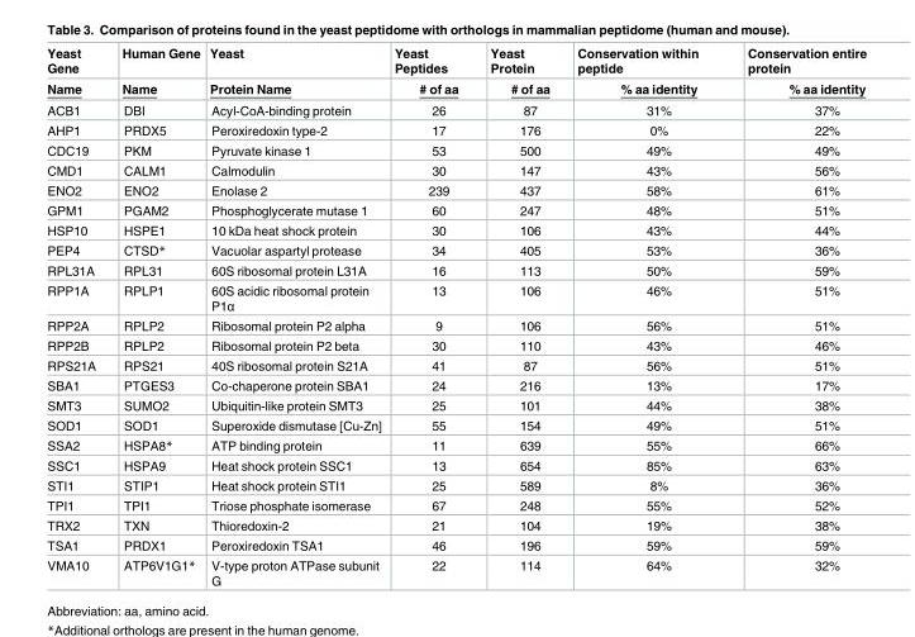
<table><thead><tr><td rowspan="2">Yeast Gene Name</td><td rowspan="2">Human Gene Name</td><td rowspan="2">Yeast Protein Name</td><td rowspan="2">Yeast Peptides # of aa</td><td rowspan="2">Yeast Protein # of aa</td><td rowspan="2">Conservation within peptide % aa identity</td><td rowspan="2">Conservation entire protein % aa identity</td></tr><tr></tr></thead><tbody><tr><td>ACB1</td><td>DBI</td><td>Acyl-CoA-binding protein</td><td>26</td><td>87</td><td>31%</td><td>37%</td></tr><tr><td>AHP1</td><td>PRDX5</td><td>Peroxiredoxin type-2</td><td>17</td><td>176</td><td>0%</td><td>22%</td></tr><tr><td>CDC19</td><td>PKM</td><td>Pyruvate kinase 1</td><td>53</td><td>500</td><td>49%</td><td>49%</td></tr><tr><td>CMD1</td><td>CALM1</td><td>Calmodulin</td><td>30</td><td>147</td><td>43%</td><td>56%</td></tr><tr><td>ENO2</td><td>ENO2</td><td>Enolase 2</td><td>239</td><td>437</td><td>58%</td><td>61%</td></tr><tr><td>GPM1</td><td>PGAM2</td><td>Phosphoglycerate mutase 1</td><td>60</td><td>247</td><td>48%</td><td>51%</td></tr><tr><td>HSP10</td><td>HSPE1</td><td>10 kDa heat shock protein</td><td>30</td><td>106</td><td>43%</td><td>44%</td></tr><tr><td>PEP4</td><td>CTSD*</td><td>Vacuolar aspartyl protease</td><td>34</td><td>405</td><td>53%</td><td>36%</td></tr><tr><td>RPL31A</td><td>RPL31</td><td>60S ribosomal protein L31A</td><td>16</td><td>113</td><td>50%</td><td>59%</td></tr><tr><td>RPP1A</td><td>RPLP1</td><td>60S acidic ribosomal protein P1α</td><td>13</td><td>106</td><td>46%</td><td>51%</td></tr><tr><td>RPP2A</td><td>RPLP2</td><td>Ribosomal protein P2 alpha</td><td>9</td><td>106</td><td>56%</td><td>51%</td></tr><tr><td>RPP2B</td><td>RPLP2</td><td>Ribosomal protein P2 beta</td><td>30</td><td>110</td><td>43%</td><td>46%</td></tr><tr><td>RPS21A</td><td>RPS21</td><td>40S ribosomal protein S21A</td><td>41</td><td>87</td><td>56%</td><td>51%</td></tr><tr><td>SBA1</td><td>PTGES3</td><td>Co-chaperone protein SBA1</td><td>24</td><td>216</td><td>13%</td><td>17%</td></tr><tr><td>SMT3</td><td>SUMO2</td><td>Ubiquitin-like protein SMT3</td><td>25</td><td>101</td><td>44%</td><td>38%</td></tr><tr><td>SOD1</td><td>SOD1</td><td>Superoxide dismutase [Cu-Zn]</td><td>55</td><td>154</td><td>49%</td><td>51%</td></tr><tr><td>SSA2</td><td>HSPA8*</td><td>ATP binding protein</td><td>11</td><td>639</td><td>55%</td><td>66%</td></tr><tr><td>SSC1</td><td>HSPA9</td><td>Heat shock protein SSC1</td><td>13</td><td>654</td><td>85%</td><td>63%</td></tr><tr><td>STI1</td><td>STIP1</td><td>Heat shock protein STI1</td><td>25</td><td>589</td><td>8%</td><td>36%</td></tr><tr><td>TPI1</td><td>TPI1</td><td>Triose phosphate isomerase</td><td>67</td><td>248</td><td>55%</td><td>52%</td></tr><tr><td>TRX2</td><td>TXN</td><td>Thioredoxin-2</td><td>21</td><td>104</td><td>19%</td><td>38%</td></tr><tr><td>TSA1</td><td>PRDX1</td><td>Peroxiredoxin TSA1</td><td>46</td><td>196</td><td>59%</td><td>59%</td></tr><tr><td>VMA10</td><td>ATP6V1G1*</td><td>V-type proton ATPase subunit G</td><td>22</td><td>114</td><td>64%</td><td>32%</td></tr></tbody></table>